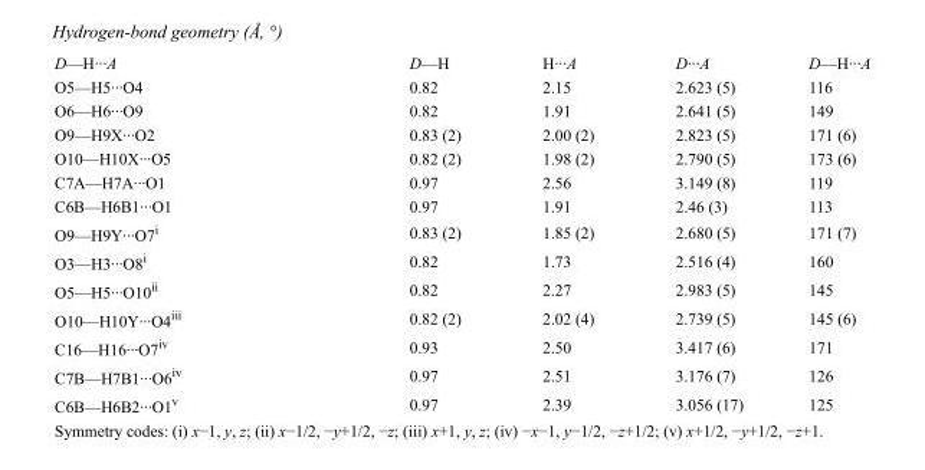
<table><tbody><tr><td>D—H···A</td><td>D—H</td><td>H···A</td><td>D···A</td><td>D—H···A</td></tr><tr><td>O5—H5···O4</td><td>0.82</td><td>2.15</td><td>2.623 (5)</td><td>116</td></tr><tr><td>O6—H6···O9</td><td>0.82</td><td>1.91</td><td>2.641 (5)</td><td>149</td></tr><tr><td>O9—H9X···O2</td><td>0.83 (2)</td><td>2.00 (2)</td><td>2.823 (5)</td><td>171 (6)</td></tr><tr><td>O10—H10X···O5</td><td>0.82 (2)</td><td>1.98 (2)</td><td>2.790 (5)</td><td>173 (6)</td></tr><tr><td>C7A—H7A···O1</td><td>0.97</td><td>2.56</td><td>3.149 (8)</td><td>119</td></tr><tr><td>C6B—H6B1···O1</td><td>0.97</td><td>1.91</td><td>2.46 (3)</td><td>113</td></tr><tr><td>O9—H9Y···O7<sup>i</sup></td><td>0.83 (2)</td><td>1.85 (2)</td><td>2.680 (5)</td><td>171 (7)</td></tr><tr><td>O3—H3···O8<sup>i</sup></td><td>0.82</td><td>1.73</td><td>2.516 (4)</td><td>160</td></tr><tr><td>O5—H5···O10<sup>ii</sup></td><td>0.82</td><td>2.27</td><td>2.983 (5)</td><td>145</td></tr><tr><td>O10—H10Y···O4<sup>iii</sup></td><td>0.82 (2)</td><td>2.02 (4)</td><td>2.739 (5)</td><td>145 (6)</td></tr><tr><td>C16—H16···O7<sup>iv</sup></td><td>0.93</td><td>2.50</td><td>3.417 (6)</td><td>171</td></tr><tr><td>C7B—H7B1···O6<sup>iv</sup></td><td>0.97</td><td>2.51</td><td>3.176 (7)</td><td>126</td></tr><tr><td>C6B—H6B2···O1<sup>v</sup></td><td>0.97</td><td>2.39</td><td>3.056 (17)</td><td>125</td></tr></tbody></table>